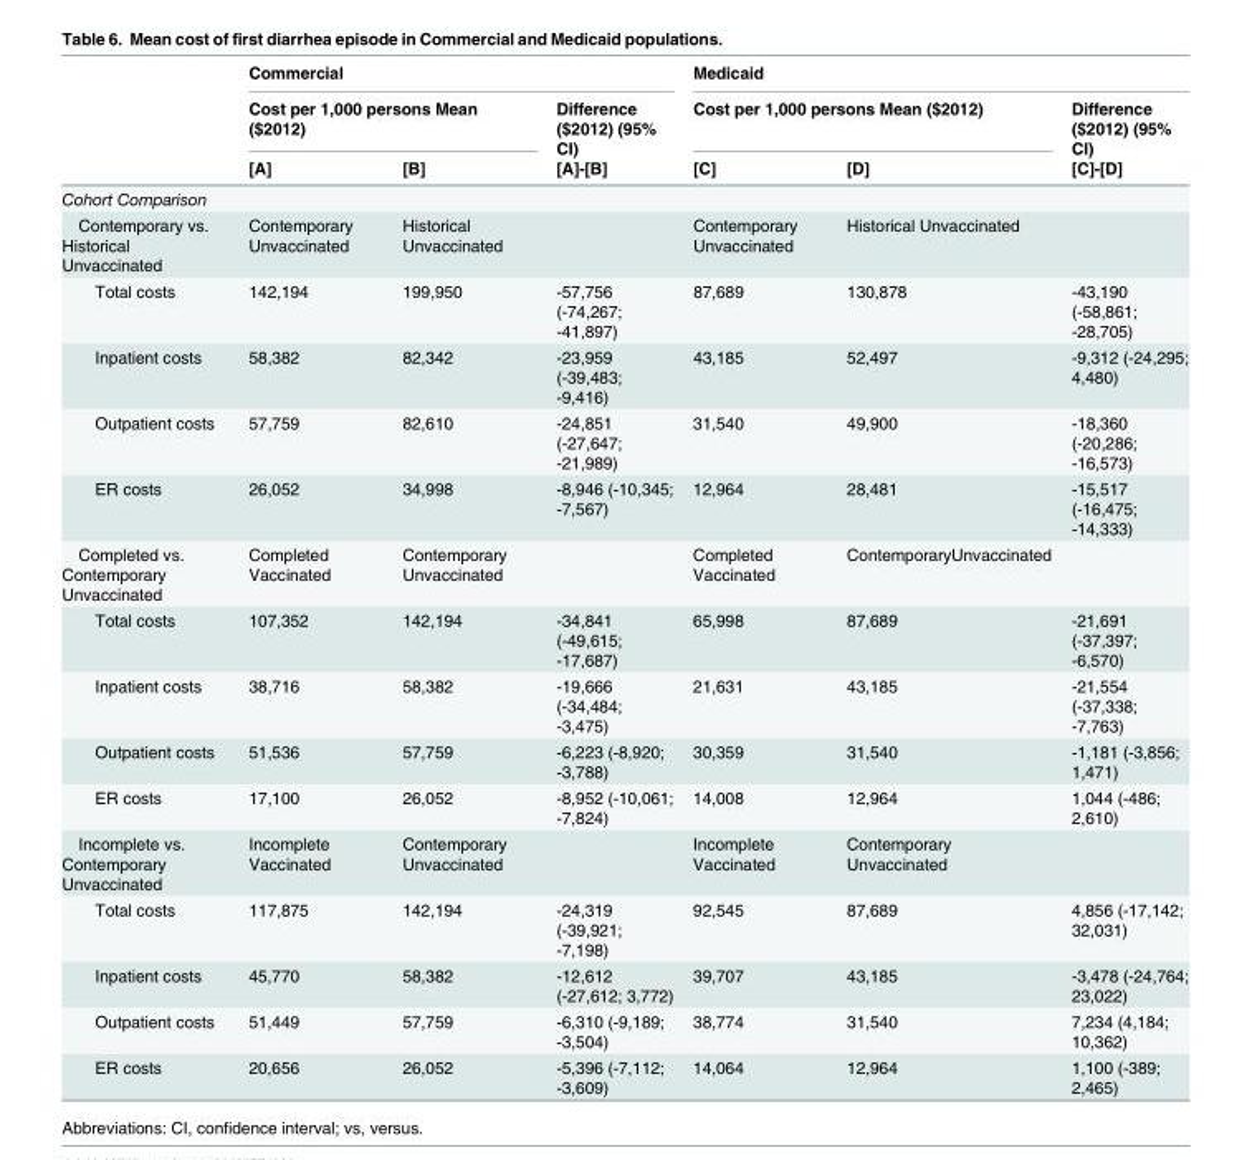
<table><thead><tr><td rowspan="3"></td><td colspan="3">Commercial</td><td colspan="3">Medicaid</td></tr><tr><td colspan="2">Cost per 1,000 persons Mean ($2012)</td><td rowspan="2">Difference ($2012) (95% CI) [A]-[B]</td><td colspan="2">Cost per 1,000 persons Mean ($2012)</td><td rowspan="2">Difference ($2012) (95% CI) [C]-[D]</td></tr><tr><td>[A]</td><td>[B]</td><td>[C]</td><td>[D]</td></tr></thead><tbody><tr><td colspan="7">Cohort Comparison</td></tr><tr><td>Contemporary vs. Historical Unvaccinated</td><td>Contemporary Unvaccinated</td><td>Historical Unvaccinated</td><td></td><td>Contemporary Unvaccinated</td><td>Historical Unvaccinated</td><td></td></tr><tr><td>Total costs</td><td>142,194</td><td>199,950</td><td>-57,756 (-74,267; -41,897)</td><td>87,689</td><td>130,878</td><td>-43,190 (-58,861; -28,705)</td></tr><tr><td>Inpatient costs</td><td>58,382</td><td>82,342</td><td>-23,959 (-39,483; -9,416)</td><td>43,185</td><td>52,497</td><td>-9,312 (-24,295; 4,480)</td></tr><tr><td>Outpatient costs</td><td>57,759</td><td>82,610</td><td>-24,851 (-27,647; -21,989)</td><td>31,540</td><td>49,900</td><td>-18,360 (-20,286; -16,573)</td></tr><tr><td>ER costs</td><td>26,052</td><td>34,998</td><td>-8,946 (-10,345; -7,567)</td><td>12,964</td><td>28,481</td><td>-15,517 (-16,475; -14,333)</td></tr><tr><td>Completed vs. Contemporary Unvaccinated</td><td>Completed Vaccinated</td><td>Contemporary Unvaccinated</td><td></td><td>Completed Vaccinated</td><td>ContemporaryUnvaccinated</td><td></td></tr><tr><td>Total costs</td><td>107,352</td><td>142,194</td><td>-34,841 (-49,615; -17,687)</td><td>65,998</td><td>87,689</td><td>-21,691 (-37,397; -6,570)</td></tr><tr><td>Inpatient costs</td><td>38,716</td><td>58,382</td><td>-19,666 (-34,484; -3,475)</td><td>21,631</td><td>43,185</td><td>-21,554 (-37,338; -7,763)</td></tr><tr><td>Outpatient costs</td><td>51,536</td><td>57,759</td><td>-6,223 (-8,920; -3,788)</td><td>30,359</td><td>31,540</td><td>-1,181 (-3,856; 1,471)</td></tr><tr><td>ER costs</td><td>17,100</td><td>26,052</td><td>-8,952 (-10,061; -7,824)</td><td>14,008</td><td>12,964</td><td>1,044 (-486; 2,610)</td></tr><tr><td>Incomplete vs. Contemporary Unvaccinated</td><td>Incomplete Vaccinated</td><td>Contemporary Unvaccinated</td><td></td><td>Incomplete Vaccinated</td><td>Contemporary Unvaccinated</td><td></td></tr><tr><td>Total costs</td><td>117,875</td><td>142,194</td><td>-24,319 (-39,921; -7,198)</td><td>92,545</td><td>87,689</td><td>4,856 (-17,142; 32,031)</td></tr><tr><td>Inpatient costs</td><td>45,770</td><td>58,382</td><td>-12,612 (-27,612; 3,772)</td><td>39,707</td><td>43,185</td><td>-3,478 (-24,764; 23,022)</td></tr><tr><td>Outpatient costs</td><td>51,449</td><td>57,759</td><td>-6,310 (-9,189; -3,504)</td><td>38,774</td><td>31,540</td><td>7,234 (4,184; 10,362)</td></tr><tr><td>ER costs</td><td>20,656</td><td>26,052</td><td>-5,396 (-7,112; -3,609)</td><td>14,064</td><td>12,964</td><td>1,100 (-389; 2,465)</td></tr></tbody></table>